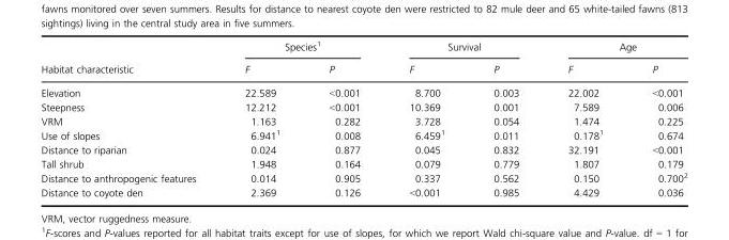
<table><thead><tr><td rowspan="2">Habitat characteristic</td><td colspan="2">Species1</td><td colspan="2">Survival</td><td colspan="2">Age</td></tr><tr><td>F</td><td>P</td><td>F</td><td>P</td><td>F</td><td>P</td></tr></thead><tbody><tr><td>Elevation</td><td>22.589</td><td>&lt;0.001</td><td>8.700</td><td>0.003</td><td>22.002</td><td>&lt;0.001</td></tr><tr><td>Steepness</td><td>12.212</td><td>&lt;0.001</td><td>10.369</td><td>0.001</td><td>7.589</td><td>0.006</td></tr><tr><td>VRM</td><td>1.163</td><td>0.282</td><td>3.728</td><td>0.054</td><td>1.474</td><td>0.225</td></tr><tr><td>Use of slopes</td><td>6.9411</td><td>0.008</td><td>6.4591</td><td>0.011</td><td>0.1781</td><td>0.674</td></tr><tr><td>Distance to riparian</td><td>0.024</td><td>0.877</td><td>0.045</td><td>0.832</td><td>32.191</td><td>&lt;0.001</td></tr><tr><td>Tall shrub</td><td>1.948</td><td>0.164</td><td>0.079</td><td>0.779</td><td>1.807</td><td>0.179</td></tr><tr><td>Distance to anthropogenic features</td><td>0.014</td><td>0.905</td><td>0.337</td><td>0.562</td><td>0.150</td><td>0.7002</td></tr><tr><td>Distance to coyote den</td><td>2.369</td><td>0.126</td><td>&lt;0.001</td><td>0.985</td><td>4.429</td><td>0.036</td></tr></tbody></table>